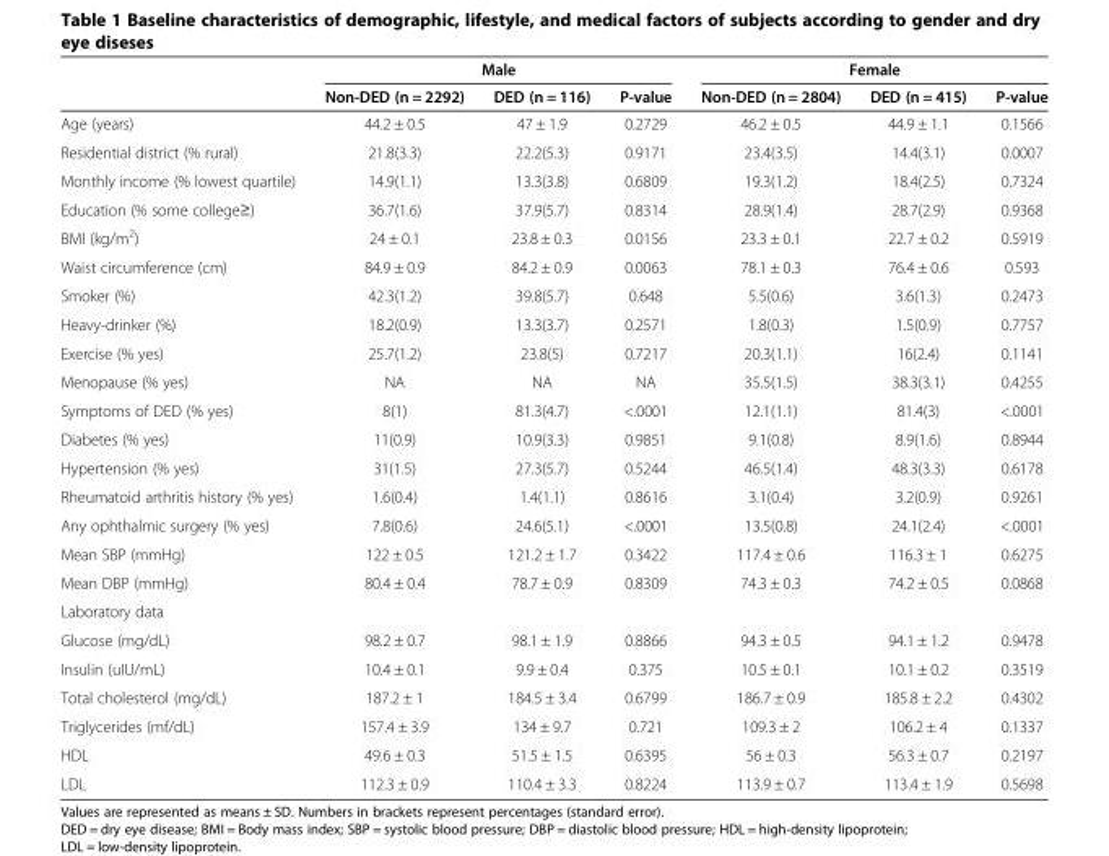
<table><thead><tr><td rowspan="2"></td><td colspan="3">Male</td><td colspan="3">Female</td></tr><tr><td>Non-DED (n = 2292)</td><td>DED (n = 116)</td><td>P-value</td><td>Non-DED (n = 2804)</td><td>DED (n = 415)</td><td>P-value</td></tr></thead><tbody><tr><td>Age (years)</td><td>44.2 ± 0.5</td><td>47 ± 1.9</td><td>0.2729</td><td>46.2 ± 0.5</td><td>44.9 ± 1.1</td><td>0.1566</td></tr><tr><td>Residential district (% rural)</td><td>21.8(3.3)</td><td>22.2(5.3)</td><td>0.9171</td><td>23.4(3.5)</td><td>14.4(3.1)</td><td>0.0007</td></tr><tr><td>Monthly income (% lowest quartile)</td><td>14.9(1.1)</td><td>13.3(3.8)</td><td>0.6809</td><td>19.3(1.2)</td><td>18.4(2.5)</td><td>0.7324</td></tr><tr><td>Education (% some college≥)</td><td>36.7(1.6)</td><td>37.9(5.7)</td><td>0.8314</td><td>28.9(1.4)</td><td>28.7(2.9)</td><td>0.9368</td></tr><tr><td>BMI (kg/m<sup>2</sup>)</td><td>24 ± 0.1</td><td>23.8 ± 0.3</td><td>0.0156</td><td>23.3 ± 0.1</td><td>22.7 ± 0.2</td><td>0.5919</td></tr><tr><td>Waist circumference (cm)</td><td>84.9 ± 0.9</td><td>84.2 ± 0.9</td><td>0.0063</td><td>78.1 ± 0.3</td><td>76.4 ± 0.6</td><td>0.593</td></tr><tr><td>Smoker (%)</td><td>42.3(1.2)</td><td>39.8(5.7)</td><td>0.648</td><td>5.5(0.6)</td><td>3.6(1.3)</td><td>0.2473</td></tr><tr><td>Heavy-drinker (%)</td><td>18.2(0.9)</td><td>13.3(3.7)</td><td>0.2571</td><td>1.8(0.3)</td><td>1.5(0.9)</td><td>0.7757</td></tr><tr><td>Exercise (% yes)</td><td>25.7(1.2)</td><td>23.8(5)</td><td>0.7217</td><td>20.3(1.1)</td><td>16(2.4)</td><td>0.1141</td></tr><tr><td>Menopause (% yes)</td><td>NA</td><td>NA</td><td>NA</td><td>35.5(1.5)</td><td>38.3(3.1)</td><td>0.4255</td></tr><tr><td>Symptoms of DED (% yes)</td><td>8(1)</td><td>81.3(4.7)</td><td>&lt;.0001</td><td>12.1(1.1)</td><td>81.4(3)</td><td>&lt;.0001</td></tr><tr><td>Diabetes (% yes)</td><td>11(0.9)</td><td>10.9(3.3)</td><td>0.9851</td><td>9.1(0.8)</td><td>8.9(1.6)</td><td>0.8944</td></tr><tr><td>Hypertension (% yes)</td><td>31(1.5)</td><td>27.3(5.7)</td><td>0.5244</td><td>46.5(1.4)</td><td>48.3(3.3)</td><td>0.6178</td></tr><tr><td>Rheumatoid arthritis history (% yes)</td><td>1.6(0.4)</td><td>1.4(1.1)</td><td>0.8616</td><td>3.1(0.4)</td><td>3.2(0.9)</td><td>0.9261</td></tr><tr><td>Any ophthalmic surgery (% yes)</td><td>7.8(0.6)</td><td>24.6(5.1)</td><td>&lt;.0001</td><td>13.5(0.8)</td><td>24.1(2.4)</td><td>&lt;.0001</td></tr><tr><td>Mean SBP (mmHg)</td><td>122 ± 0.5</td><td>121.2 ± 1.7</td><td>0.3422</td><td>117.4 ± 0.6</td><td>116.3 ± 1</td><td>0.6275</td></tr><tr><td>Mean DBP (mmHg)</td><td>80.4 ± 0.4</td><td>78.7 ± 0.9</td><td>0.8309</td><td>74.3 ± 0.3</td><td>74.2 ± 0.5</td><td>0.0868</td></tr><tr><td colspan="7">Laboratory data</td></tr><tr><td>Glucose (mg/dL)</td><td>98.2 ± 0.7</td><td>98.1 ± 1.9</td><td>0.8866</td><td>94.3 ± 0.5</td><td>94.1 ± 1.2</td><td>0.9478</td></tr><tr><td>Insulin (uIU/mL)</td><td>10.4 ± 0.1</td><td>9.9 ± 0.4</td><td>0.375</td><td>10.5 ± 0.1</td><td>10.1 ± 0.2</td><td>0.3519</td></tr><tr><td>Total cholesterol (mg/dL)</td><td>187.2 ± 1</td><td>184.5 ± 3.4</td><td>0.6799</td><td>186.7 ± 0.9</td><td>185.8 ± 2.2</td><td>0.4302</td></tr><tr><td>Triglycerides (mf/dL)</td><td>157.4 ± 3.9</td><td>134 ± 9.7</td><td>0.721</td><td>109.3 ± 2</td><td>106.2 ± 4</td><td>0.1337</td></tr><tr><td>HDL</td><td>49.6 ± 0.3</td><td>51.5 ± 1.5</td><td>0.6395</td><td>56 ± 0.3</td><td>56.3 ± 0.7</td><td>0.2197</td></tr><tr><td>LDL</td><td>112.3 ± 0.9</td><td>110.4 ± 3.3</td><td>0.8224</td><td>113.9 ± 0.7</td><td>113.4 ± 1.9</td><td>0.5698</td></tr></tbody></table>